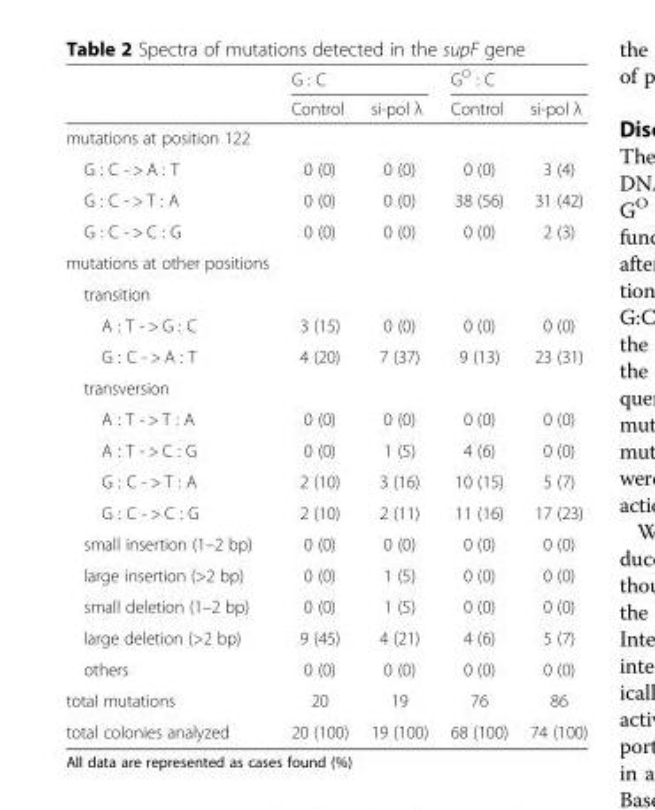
<table><thead><tr><td rowspan="2"></td><td colspan="2">G : C</td><td colspan="2">G<sup>O</sup> : C</td></tr><tr><td>Control</td><td>si-pol λ</td><td>Control</td><td>si-pol λ</td></tr></thead><tbody><tr><td colspan="5">mutations at position 122</td></tr><tr><td>G : C - &gt; A : T</td><td>0 (0)</td><td>0 (0)</td><td>0 (0)</td><td>3 (4)</td></tr><tr><td>G : C - &gt; T : A</td><td>0 (0)</td><td>0 (0)</td><td>38 (56)</td><td>31 (42)</td></tr><tr><td>G : C - &gt; C : G</td><td>0 (0)</td><td>0 (0)</td><td>0 (0)</td><td>2 (3)</td></tr><tr><td colspan="5">mutations at other positions</td></tr><tr><td colspan="5">transition</td></tr><tr><td>A : T - &gt; G : C</td><td>3 (15)</td><td>0 (0)</td><td>0 (0)</td><td>0 (0)</td></tr><tr><td>G : C - &gt; A : T</td><td>4 (20)</td><td>7 (37)</td><td>9 (13)</td><td>23 (31)</td></tr><tr><td colspan="5">transversion</td></tr><tr><td>A : T - &gt; T : A</td><td>0 (0)</td><td>0 (0)</td><td>0 (0)</td><td>0 (0)</td></tr><tr><td>A : T - &gt; C : G</td><td>0 (0)</td><td>1 (5)</td><td>4 (6)</td><td>0 (0)</td></tr><tr><td>G : C - &gt; T : A</td><td>2 (10)</td><td>3 (16)</td><td>10 (15)</td><td>5 (7)</td></tr><tr><td>G : C - &gt; C : G</td><td>2 (10)</td><td>2 (11)</td><td>11 (16)</td><td>17 (23)</td></tr><tr><td>small insertion (1–2 bp)</td><td>0 (0)</td><td>0 (0)</td><td>0 (0)</td><td>0 (0)</td></tr><tr><td>large insertion (&gt;2 bp)</td><td>0 (0)</td><td>1 (5)</td><td>0 (0)</td><td>0 (0)</td></tr><tr><td>small deletion (1–2 bp)</td><td>0 (0)</td><td>1 (5)</td><td>0 (0)</td><td>0 (0)</td></tr><tr><td>large deletion (&gt;2 bp)</td><td>9 (45)</td><td>4 (21)</td><td>4 (6)</td><td>5 (7)</td></tr><tr><td>others</td><td>0 (0)</td><td>0 (0)</td><td>0 (0)</td><td>0 (0)</td></tr><tr><td>total mutations</td><td>20</td><td>19</td><td>76</td><td>86</td></tr><tr><td>total colonies analyzed</td><td>20 (100)</td><td>19 (100)</td><td>68 (100)</td><td>74 (100)</td></tr></tbody></table>